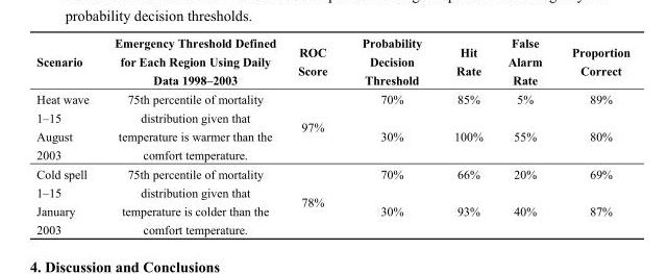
<table><thead><tr><td>Scenario</td><td>Emergency Threshold Defined for Each Region Using Daily Data 1998–2003</td><td>ROC Score</td><td>Probability Decision Threshold</td><td>Hit Rate</td><td>False Alarm Rate</td><td>Proportion Correct</td></tr></thead><tbody><tr><td rowspan="2">Heat wave 1–15 August 2003</td><td rowspan="2">75th percentile of mortality distribution given that temperature is warmer than the comfort temperature.</td><td rowspan="2">97%</td><td>70%</td><td>85%</td><td>5%</td><td>89%</td></tr><tr><td>30%</td><td>100%</td><td>55%</td><td>80%</td></tr><tr><td rowspan="2">Cold spell 1–15 January 2003</td><td rowspan="2">75th percentile of mortality distribution given that temperature is colder than the comfort temperature.</td><td rowspan="2">78%</td><td>70%</td><td>66%</td><td>20%</td><td>69%</td></tr><tr><td>30%</td><td>93%</td><td>40%</td><td>87%</td></tr></tbody></table>